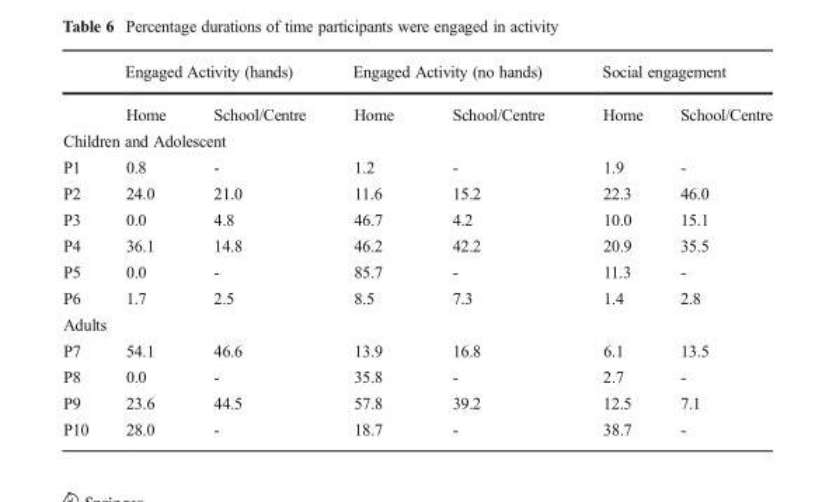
<table><thead><tr><td rowspan="2"></td><td colspan="2">Engaged Activity (hands)</td><td colspan="2">Engaged Activity (no hands)</td><td colspan="2">Social engagement</td></tr><tr><td>Home</td><td>School/Centre</td><td>Home</td><td>School/Centre</td><td>Home</td><td>School/Centre</td></tr></thead><tbody><tr><td colspan="7">Children and Adolescent</td></tr><tr><td>P1</td><td>0.8</td><td>-</td><td>1.2</td><td>-</td><td>1.9</td><td>-</td></tr><tr><td>P2</td><td>24.0</td><td>21.0</td><td>11.6</td><td>15.2</td><td>22.3</td><td>46.0</td></tr><tr><td>P3</td><td>0.0</td><td>4.8</td><td>46.7</td><td>4.2</td><td>10.0</td><td>15.1</td></tr><tr><td>P4</td><td>36.1</td><td>14.8</td><td>46.2</td><td>42.2</td><td>20.9</td><td>35.5</td></tr><tr><td>P5</td><td>0.0</td><td>-</td><td>85.7</td><td>-</td><td>11.3</td><td>-</td></tr><tr><td>P6</td><td>1.7</td><td>2.5</td><td>8.5</td><td>7.3</td><td>1.4</td><td>2.8</td></tr><tr><td colspan="7">Adults</td></tr><tr><td>P7</td><td>54.1</td><td>46.6</td><td>13.9</td><td>16.8</td><td>6.1</td><td>13.5</td></tr><tr><td>P8</td><td>0.0</td><td>-</td><td>35.8</td><td>-</td><td>2.7</td><td>-</td></tr><tr><td>P9</td><td>23.6</td><td>44.5</td><td>57.8</td><td>39.2</td><td>12.5</td><td>7.1</td></tr><tr><td>P10</td><td>28.0</td><td>-</td><td>18.7</td><td>-</td><td>38.7</td><td>-</td></tr></tbody></table>